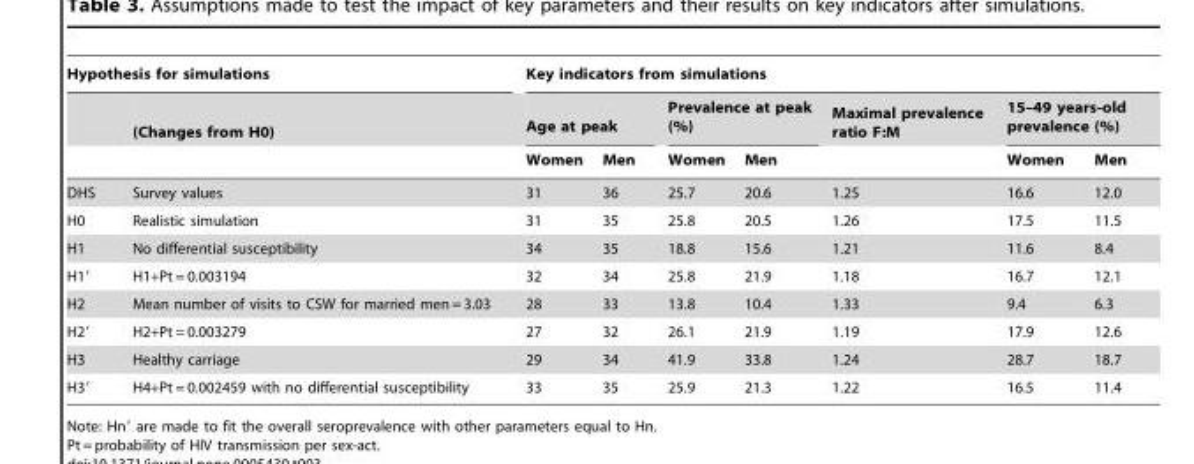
<table><thead><tr><td colspan="2">Hypothesis for simulations</td><td colspan="7">Key indicators from simulations</td></tr><tr><td rowspan="2"></td><td rowspan="2">(Changes from H0)</td><td colspan="2">Age at peak</td><td colspan="2">Prevalence at peak (%)</td><td rowspan="2">Maximal prevalence ratio F:M</td><td colspan="2">15–49 years-old prevalence (%)</td></tr><tr><td>Women</td><td>Men</td><td>Women</td><td>Men</td><td>Women</td><td>Men</td></tr></thead><tbody><tr><td>DHS</td><td>Survey values</td><td>31</td><td>36</td><td>25.7</td><td>20.6</td><td>1.25</td><td>16.6</td><td>12.0</td></tr><tr><td>H0</td><td>Realistic simulation</td><td>31</td><td>35</td><td>25.8</td><td>20.5</td><td>1.26</td><td>17.5</td><td>11.5</td></tr><tr><td>H1</td><td>No differential susceptibility</td><td>34</td><td>35</td><td>18.8</td><td>15.6</td><td>1.21</td><td>11.6</td><td>8.4</td></tr><tr><td>H1′</td><td>H1+Pt = 0.003194</td><td>32</td><td>34</td><td>25.8</td><td>21.9</td><td>1.18</td><td>16.7</td><td>12.1</td></tr><tr><td>H2</td><td>Mean number of visits to CSW for married men = 3.03</td><td>28</td><td>33</td><td>13.8</td><td>10.4</td><td>1.33</td><td>9.4</td><td>6.3</td></tr><tr><td>H2′</td><td>H2+Pt = 0.003279</td><td>27</td><td>32</td><td>26.1</td><td>21.9</td><td>1.19</td><td>17.9</td><td>12.6</td></tr><tr><td>H3</td><td>Healthy carriage</td><td>29</td><td>34</td><td>41.9</td><td>33.8</td><td>1.24</td><td>28.7</td><td>18.7</td></tr><tr><td>H3′</td><td>H4+Pt = 0.002459 with no differential susceptibility</td><td>33</td><td>35</td><td>25.9</td><td>21.3</td><td>1.22</td><td>16.5</td><td>11.4</td></tr></tbody></table>